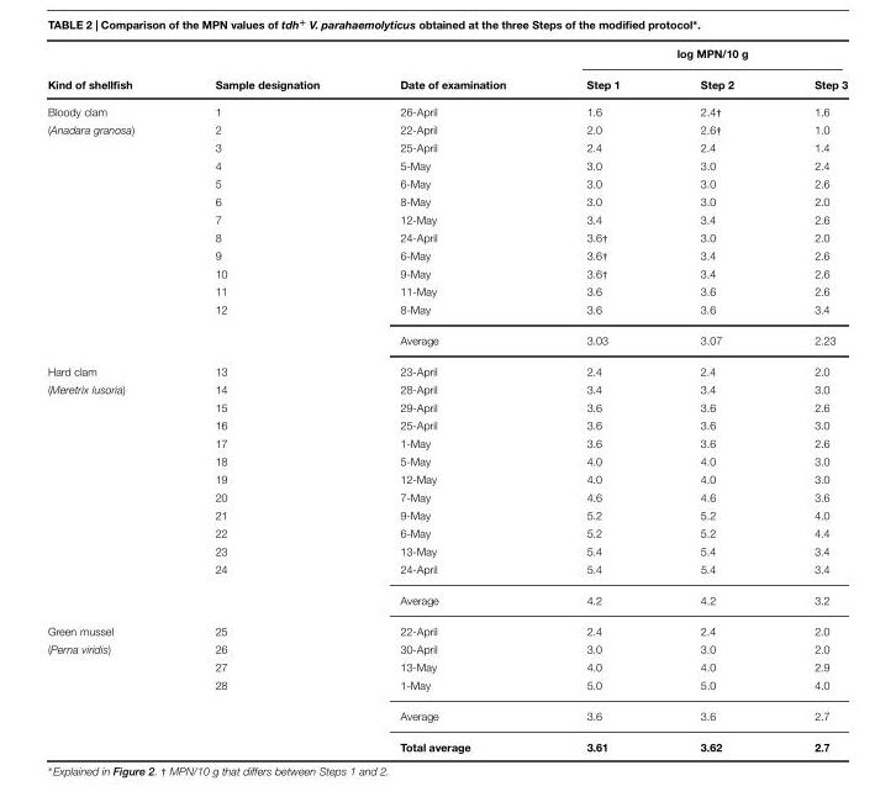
<table><thead><tr><td rowspan="2">Kind of shellfish</td><td rowspan="2">Sample designation</td><td rowspan="2">Date of examination</td><td colspan="3">log MPN/10 g</td></tr><tr><td>Step 1</td><td>Step 2</td><td>Step 3</td></tr></thead><tbody><tr><td>Bloody clam</td><td>1</td><td>26-April</td><td>1.6</td><td>2.4†</td><td>1.6</td></tr><tr><td rowspan="12">(Anadara granosa)</td><td>2</td><td>22-April</td><td>2.0</td><td>2.6†</td><td>1.0</td></tr><tr><td>3</td><td>25-April</td><td>2.4</td><td>2.4</td><td>1.4</td></tr><tr><td>4</td><td>5-May</td><td>3.0</td><td>3.0</td><td>2.4</td></tr><tr><td>5</td><td>6-May</td><td>3.0</td><td>3.0</td><td>2.6</td></tr><tr><td>6</td><td>8-May</td><td>3.0</td><td>3.0</td><td>2.0</td></tr><tr><td>7</td><td>12-May</td><td>3.4</td><td>3.4</td><td>2.6</td></tr><tr><td>8</td><td>24-April</td><td>3.6†</td><td>3.0</td><td>2.0</td></tr><tr><td>9</td><td>6-May</td><td>3.6†</td><td>3.4</td><td>2.6</td></tr><tr><td>10</td><td>9-May</td><td>3.6†</td><td>3.4</td><td>2.6</td></tr><tr><td>11</td><td>11-May</td><td>3.6</td><td>3.6</td><td>2.6</td></tr><tr><td>12</td><td>8-May</td><td>3.6</td><td>3.6</td><td>3.4</td></tr><tr><td></td><td>Average</td><td>3.03</td><td>3.07</td><td>2.23</td></tr><tr><td>Hard clam</td><td>13</td><td>23-April</td><td>2.4</td><td>2.4</td><td>2.0</td></tr><tr><td rowspan="12">(Meretrix lusoria)</td><td>14</td><td>28-April</td><td>3.4</td><td>3.4</td><td>3.0</td></tr><tr><td>15</td><td>29-April</td><td>3.6</td><td>3.6</td><td>2.6</td></tr><tr><td>16</td><td>25-April</td><td>3.6</td><td>3.6</td><td>3.0</td></tr><tr><td>17</td><td>1-May</td><td>3.6</td><td>3.6</td><td>2.6</td></tr><tr><td>18</td><td>5-May</td><td>4.0</td><td>4.0</td><td>3.0</td></tr><tr><td>19</td><td>12-May</td><td>4.0</td><td>4.0</td><td>3.0</td></tr><tr><td>20</td><td>7-May</td><td>4.6</td><td>4.6</td><td>3.6</td></tr><tr><td>21</td><td>9-May</td><td>5.2</td><td>5.2</td><td>4.0</td></tr><tr><td>22</td><td>6-May</td><td>5.2</td><td>5.2</td><td>4.4</td></tr><tr><td>23</td><td>13-May</td><td>5.4</td><td>5.4</td><td>3.4</td></tr><tr><td>24</td><td>24-April</td><td>5.4</td><td>5.4</td><td>3.4</td></tr><tr><td></td><td>Average</td><td>4.2</td><td>4.2</td><td>3.2</td></tr><tr><td>Green mussel</td><td>25</td><td>22-April</td><td>2.4</td><td>2.4</td><td>2.0</td></tr><tr><td rowspan="5">(Perna viridis)</td><td>26</td><td>30-April</td><td>3.0</td><td>3.0</td><td>2.0</td></tr><tr><td>27</td><td>13-May</td><td>4.0</td><td>4.0</td><td>2.9</td></tr><tr><td>28</td><td>1-May</td><td>5.0</td><td>5.0</td><td>4.0</td></tr><tr><td></td><td>Average</td><td>3.6</td><td>3.6</td><td>2.7</td></tr><tr><td></td><td>Total average</td><td>3.61</td><td>3.62</td><td>2.7</td></tr></tbody></table>